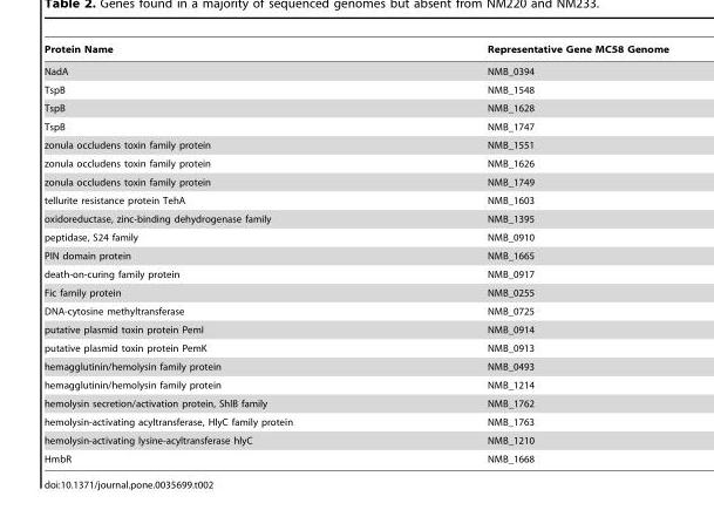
<table><thead><tr><td>Protein Name</td><td>Representative Gene MC58 Genome</td></tr></thead><tbody><tr><td>NadA</td><td>NMB_0394</td></tr><tr><td>TspB</td><td>NMB_1548</td></tr><tr><td>TspB</td><td>NMB_1628</td></tr><tr><td>TspB</td><td>NMB_1747</td></tr><tr><td>zonula occludens toxin family protein</td><td>NMB_1551</td></tr><tr><td>zonula occludens toxin family protein</td><td>NMB_1626</td></tr><tr><td>zonula occludens toxin family protein</td><td>NMB_1749</td></tr><tr><td>tellurite resistance protein TehA</td><td>NMB_1603</td></tr><tr><td>oxidoreductase, zinc-binding dehydrogenase family</td><td>NMB_1395</td></tr><tr><td>peptidase, S24 family</td><td>NMB_0910</td></tr><tr><td>PIN domain protein</td><td>NMB_1665</td></tr><tr><td>death-on-curing family protein</td><td>NMB_0917</td></tr><tr><td>Fic family protein</td><td>NMB_0255</td></tr><tr><td>DNA-cytosine methyltransferase</td><td>NMB_0725</td></tr><tr><td>putative plasmid toxin protein PemI</td><td>NMB_0914</td></tr><tr><td>putative plasmid toxin protein PemK</td><td>NMB_0913</td></tr><tr><td>hemagglutinin/hemolysin family protein</td><td>NMB_0493</td></tr><tr><td>hemagglutinin/hemolysin family protein</td><td>NMB_1214</td></tr><tr><td>hemolysin secretion/activation protein, ShlB family</td><td>NMB_1762</td></tr><tr><td>hemolysin-activating acyltransferase, HlyC family protein</td><td>NMB_1763</td></tr><tr><td>hemolysin-activating lysine-acyltransferase hlyC</td><td>NMB_1210</td></tr><tr><td>HmbR</td><td>NMB_1668</td></tr></tbody></table>